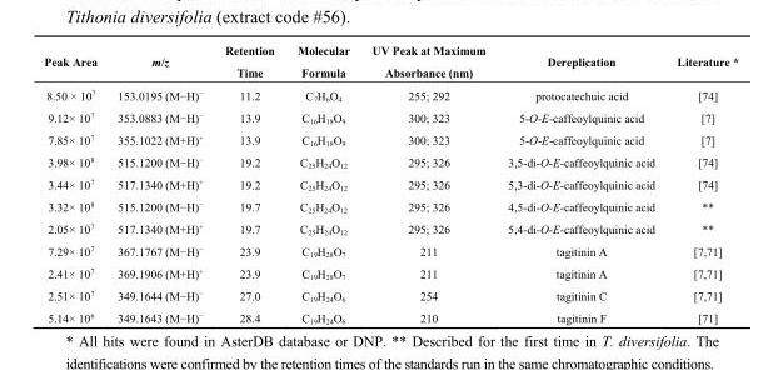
<table><thead><tr><td>Peak Area</td><td>m/z</td><td>Retention Time</td><td>Molecular Formula</td><td>UV Peak at Maximum Absorbance (nm)</td><td>Dereplication</td><td>Literature *</td></tr></thead><tbody><tr><td>8.50 × 10<sup>7</sup></td><td>153.0195 (M−H)<sup>−</sup></td><td>11.2</td><td>C<sub>7</sub>H<sub>6</sub>O<sub>4</sub></td><td>255; 292</td><td>protocatechuic acid</td><td>[74]</td></tr><tr><td>9.12× 10<sup>7</sup></td><td>353.0883 (M−H)<sup>−</sup></td><td>13.9</td><td>C<sub>16</sub>H<sub>18</sub>O<sub>9</sub></td><td>300; 323</td><td>5-O-E-caffeoylquinic acid</td><td>[7]</td></tr><tr><td>7.85× 10<sup>7</sup></td><td>355.1022 (M+H)<sup>+</sup></td><td>13.9</td><td>C<sub>16</sub>H<sub>18</sub>O<sub>9</sub></td><td>300; 323</td><td>5-O-E-caffeoylquinic acid</td><td>[7]</td></tr><tr><td>3.98× 10<sup>8</sup></td><td>515.1200 (M−H)<sup>−</sup></td><td>19.2</td><td>C<sub>25</sub>H<sub>24</sub>O<sub>12</sub></td><td>295; 326</td><td>3,5-di-O-E-caffeoylquinic acid</td><td>[74]</td></tr><tr><td>3.44× 10<sup>7</sup></td><td>517.1340 (M+H)<sup>+</sup></td><td>19.2</td><td>C<sub>25</sub>H<sub>24</sub>O<sub>12</sub></td><td>295; 326</td><td>5,3-di-O-E-caffeoylquinic acid</td><td>[74]</td></tr><tr><td>3.32× 10<sup>8</sup></td><td>515.1200 (M−H)<sup>−</sup></td><td>19.7</td><td>C<sub>25</sub>H<sub>24</sub>O<sub>12</sub></td><td>295; 326</td><td>4,5-di-O-E-caffeoylquinic acid</td><td>**</td></tr><tr><td>2.05× 10<sup>7</sup></td><td>517.1340 (M+H)<sup>+</sup></td><td>19.7</td><td>C<sub>25</sub>H<sub>24</sub>O<sub>12</sub></td><td>295; 326</td><td>5,4-di-O-E-caffeoylquinic acid</td><td>**</td></tr><tr><td>7.29× 10<sup>7</sup></td><td>367.1767 (M−H)<sup>−</sup></td><td>23.9</td><td>C<sub>19</sub>H<sub>28</sub>O<sub>7</sub></td><td>211</td><td>tagitinin A</td><td>[7,71]</td></tr><tr><td>2.41× 10<sup>7</sup></td><td>369.1906 (M+H)<sup>+</sup></td><td>23.9</td><td>C<sub>19</sub>H<sub>28</sub>O<sub>7</sub></td><td>211</td><td>tagitinin A</td><td>[7,71]</td></tr><tr><td>2.51× 10<sup>7</sup></td><td>349.1644 (M−H)<sup>−</sup></td><td>27.0</td><td>C<sub>19</sub>H<sub>24</sub>O<sub>6</sub></td><td>254</td><td>tagitinin C</td><td>[7,71]</td></tr><tr><td>5.14× 10<sup>6</sup></td><td>349.1643 (M−H)<sup>−</sup></td><td>28.4</td><td>C<sub>19</sub>H<sub>24</sub>O<sub>6</sub></td><td>210</td><td>tagitinin F</td><td>[71]</td></tr></tbody></table>